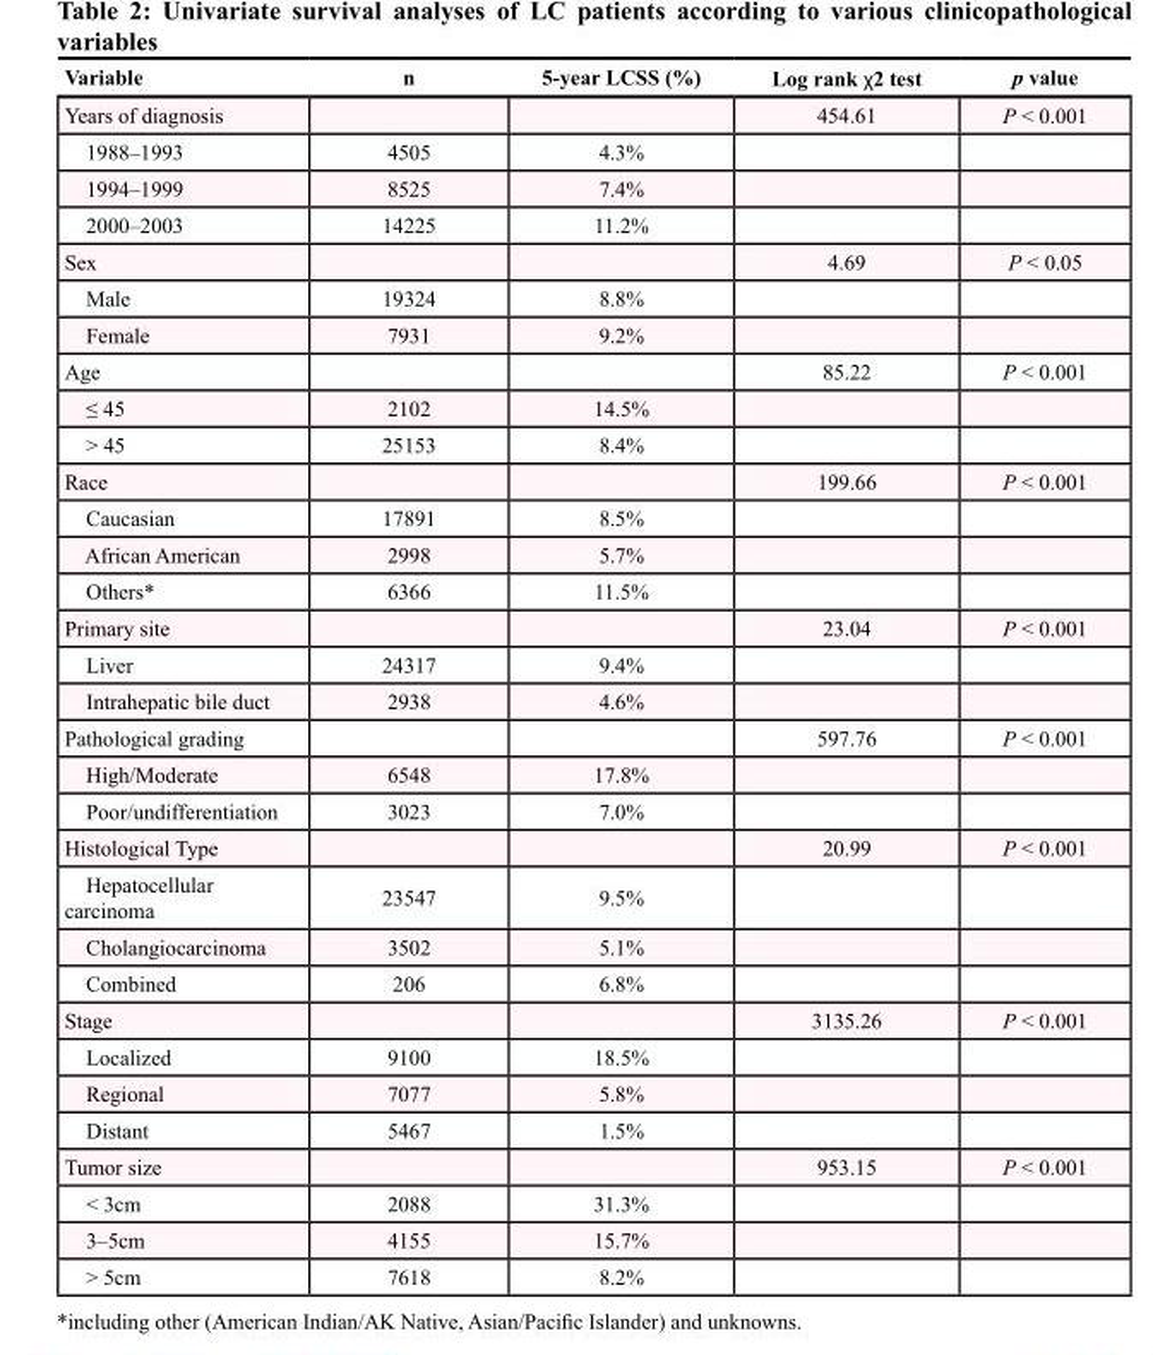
<table><thead><tr><td>Variable</td><td>n</td><td>5-year LCSS (%)</td><td>Log rank χ2 test</td><td>p value</td></tr></thead><tbody><tr><td>Years of diagnosis</td><td></td><td></td><td>454.61</td><td>P &lt; 0.001</td></tr><tr><td>1988–1993</td><td>4505</td><td>4.3%</td><td></td><td></td></tr><tr><td>1994–1999</td><td>8525</td><td>7.4%</td><td></td><td></td></tr><tr><td>2000–2003</td><td>14225</td><td>11.2%</td><td></td><td></td></tr><tr><td>Sex</td><td></td><td></td><td>4.69</td><td>P &lt; 0.05</td></tr><tr><td>Male</td><td>19324</td><td>8.8%</td><td></td><td></td></tr><tr><td>Female</td><td>7931</td><td>9.2%</td><td></td><td></td></tr><tr><td>Age</td><td></td><td></td><td>85.22</td><td>P &lt; 0.001</td></tr><tr><td>≤ 45</td><td>2102</td><td>14.5%</td><td></td><td></td></tr><tr><td>&gt; 45</td><td>25153</td><td>8.4%</td><td></td><td></td></tr><tr><td>Race</td><td></td><td></td><td>199.66</td><td>P &lt; 0.001</td></tr><tr><td>Caucasian</td><td>17891</td><td>8.5%</td><td></td><td></td></tr><tr><td>African American</td><td>2998</td><td>5.7%</td><td></td><td></td></tr><tr><td>Others*</td><td>6366</td><td>11.5%</td><td></td><td></td></tr><tr><td>Primary site</td><td></td><td></td><td>23.04</td><td>P &lt; 0.001</td></tr><tr><td>Liver</td><td>24317</td><td>9.4%</td><td></td><td></td></tr><tr><td>Intrahepatic bile duct</td><td>2938</td><td>4.6%</td><td></td><td></td></tr><tr><td>Pathological grading</td><td></td><td></td><td>597.76</td><td>P &lt; 0.001</td></tr><tr><td>High/Moderate</td><td>6548</td><td>17.8%</td><td></td><td></td></tr><tr><td>Poor/undifferentiation</td><td>3023</td><td>7.0%</td><td></td><td></td></tr><tr><td>Histological Type</td><td></td><td></td><td>20.99</td><td>P &lt; 0.001</td></tr><tr><td>Hepatocellular carcinoma</td><td>23547</td><td>9.5%</td><td></td><td></td></tr><tr><td>Cholangiocarcinoma</td><td>3502</td><td>5.1%</td><td></td><td></td></tr><tr><td>Combined</td><td>206</td><td>6.8%</td><td></td><td></td></tr><tr><td>Stage</td><td></td><td></td><td>3135.26</td><td>P &lt; 0.001</td></tr><tr><td>Localized</td><td>9100</td><td>18.5%</td><td></td><td></td></tr><tr><td>Regional</td><td>7077</td><td>5.8%</td><td></td><td></td></tr><tr><td>Distant</td><td>5467</td><td>1.5%</td><td></td><td></td></tr><tr><td>Tumor size</td><td></td><td></td><td>953.15</td><td>P &lt; 0.001</td></tr><tr><td>&lt; 3cm</td><td>2088</td><td>31.3%</td><td></td><td></td></tr><tr><td>3–5cm</td><td>4155</td><td>15.7%</td><td></td><td></td></tr><tr><td>&gt; 5cm</td><td>7618</td><td>8.2%</td><td></td><td></td></tr></tbody></table>